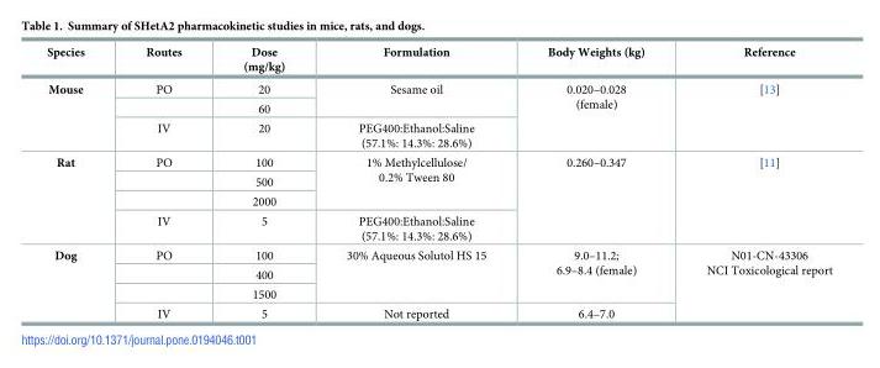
<table><thead><tr><td>Species</td><td>Routes</td><td>Dose (mg/kg)</td><td>Formulation</td><td>Body Weights (kg)</td><td>Reference</td></tr></thead><tbody><tr><td rowspan="3">Mouse</td><td>PO</td><td>20</td><td rowspan="2">Sesame oil</td><td rowspan="3">0.020–0.028 (female)</td><td rowspan="3">[13]</td></tr><tr><td></td><td>60</td></tr><tr><td>IV</td><td>20</td><td>PEG400:Ethanol:Saline (57.1%: 14.3%: 28.6%)</td></tr><tr><td rowspan="4">Rat</td><td>PO</td><td>100</td><td rowspan="3">1% Methylcellulose/ 0.2% Tween 80</td><td rowspan="4">0.260–0.347</td><td rowspan="4">[11]</td></tr><tr><td></td><td>500</td></tr><tr><td></td><td>2000</td></tr><tr><td>IV</td><td>5</td><td>PEG400:Ethanol:Saline (57.1%: 14.3%: 28.6%)</td></tr><tr><td rowspan="4">Dog</td><td>PO</td><td>100</td><td rowspan="3">30% Aqueous Solutol HS 15</td><td rowspan="3">9.0–11.2; 6.9–8.4 (female)</td><td rowspan="4">N01-CN-43306 NCI Toxicological report</td></tr><tr><td></td><td>400</td></tr><tr><td></td><td>1500</td></tr><tr><td>IV</td><td>5</td><td>Not reported</td><td>6.4–7.0</td></tr></tbody></table>